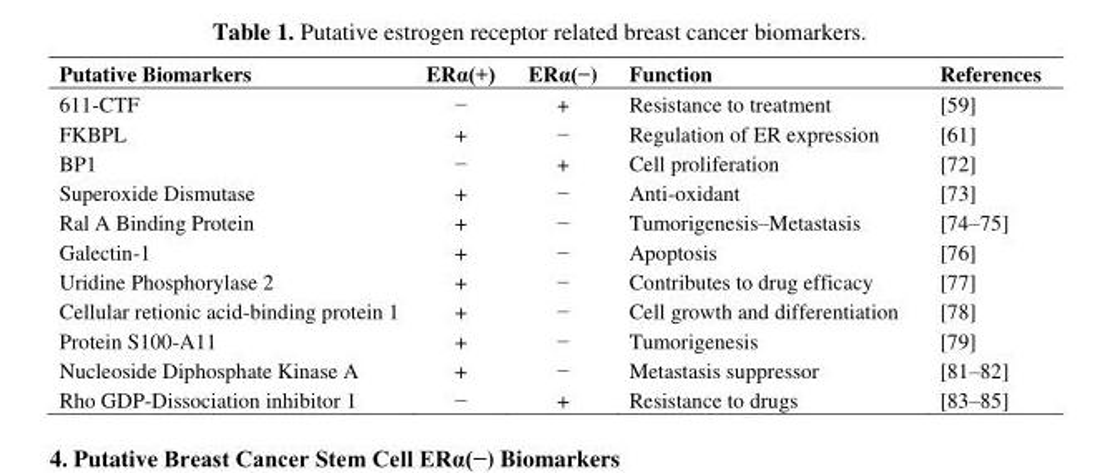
<table><thead><tr><td>Putative Biomarkers</td><td>ERα(+)</td><td>ERα(−)</td><td>Function</td><td>References</td></tr></thead><tbody><tr><td>611-CTF</td><td>−</td><td>+</td><td>Resistance to treatment</td><td>[59]</td></tr><tr><td>FKBPL</td><td>+</td><td>−</td><td>Regulation of ER expression</td><td>[61]</td></tr><tr><td>BP1</td><td>−</td><td>+</td><td>Cell proliferation</td><td>[72]</td></tr><tr><td>Superoxide Dismutase</td><td>+</td><td>−</td><td>Anti-oxidant</td><td>[73]</td></tr><tr><td>Ral A Binding Protein</td><td>+</td><td>−</td><td>Tumorigenesis–Metastasis</td><td>[74–75]</td></tr><tr><td>Galectin-1</td><td>+</td><td>−</td><td>Apoptosis</td><td>[76]</td></tr><tr><td>Uridine Phosphorylase 2</td><td>+</td><td>−</td><td>Contributes to drug efficacy</td><td>[77]</td></tr><tr><td>Cellular retionic acid-binding protein 1</td><td>+</td><td>−</td><td>Cell growth and differentiation</td><td>[78]</td></tr><tr><td>Protein S100-A11</td><td>+</td><td>−</td><td>Tumorigenesis</td><td>[79]</td></tr><tr><td>Nucleoside Diphosphate Kinase A</td><td>+</td><td>−</td><td>Metastasis suppressor</td><td>[81–82]</td></tr><tr><td>Rho GDP-Dissociation inhibitor 1</td><td>−</td><td>+</td><td>Resistance to drugs</td><td>[83–85]</td></tr></tbody></table>